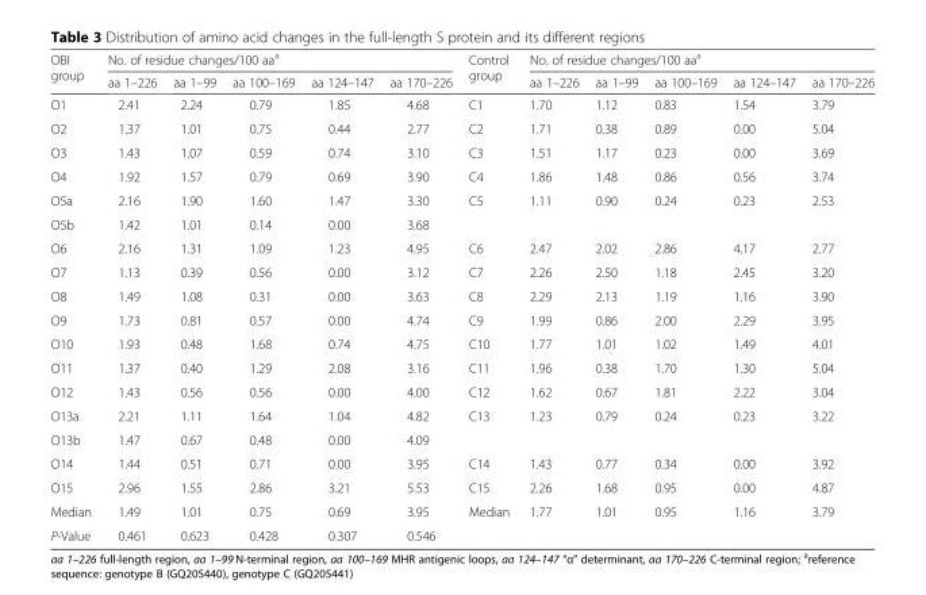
<table><thead><tr><td rowspan="2">OBI group</td><td colspan="5">No. of residue changes/100 aa<sup>a</sup></td><td rowspan="2">Control group</td><td colspan="5">No. of residue changes/100 aa<sup>a</sup></td></tr><tr><td>aa 1–226</td><td>aa 1–99</td><td>aa 100–169</td><td>aa 124–147</td><td>aa 170–226</td><td>aa 1–226</td><td>aa 1–99</td><td>aa 100–169</td><td>aa 124–147</td><td>aa 170–226</td></tr></thead><tbody><tr><td>O1</td><td>2.41</td><td>2.24</td><td>0.79</td><td>1.85</td><td>4.68</td><td>C1</td><td>1.70</td><td>1.12</td><td>0.83</td><td>1.54</td><td>3.79</td></tr><tr><td>O2</td><td>1.37</td><td>1.01</td><td>0.75</td><td>0.44</td><td>2.77</td><td>C2</td><td>1.71</td><td>0.38</td><td>0.89</td><td>0.00</td><td>5.04</td></tr><tr><td>O3</td><td>1.43</td><td>1.07</td><td>0.59</td><td>0.74</td><td>3.10</td><td>C3</td><td>1.51</td><td>1.17</td><td>0.23</td><td>0.00</td><td>3.69</td></tr><tr><td>O4</td><td>1.92</td><td>1.57</td><td>0.79</td><td>0.69</td><td>3.90</td><td>C4</td><td>1.86</td><td>1.48</td><td>0.86</td><td>0.56</td><td>3.74</td></tr><tr><td>O5a</td><td>2.16</td><td>1.90</td><td>1.60</td><td>1.47</td><td>3.30</td><td>C5</td><td>1.11</td><td>0.90</td><td>0.24</td><td>0.23</td><td>2.53</td></tr><tr><td>O5b</td><td>1.42</td><td>1.01</td><td>0.14</td><td>0.00</td><td>3.68</td><td></td><td></td><td></td><td></td><td></td><td></td></tr><tr><td>O6</td><td>2.16</td><td>1.31</td><td>1.09</td><td>1.23</td><td>4.95</td><td>C6</td><td>2.47</td><td>2.02</td><td>2.86</td><td>4.17</td><td>2.77</td></tr><tr><td>O7</td><td>1.13</td><td>0.39</td><td>0.56</td><td>0.00</td><td>3.12</td><td>C7</td><td>2.26</td><td>2.50</td><td>1.18</td><td>2.45</td><td>3.20</td></tr><tr><td>O8</td><td>1.49</td><td>1.08</td><td>0.31</td><td>0.00</td><td>3.63</td><td>C8</td><td>2.29</td><td>2.13</td><td>1.19</td><td>1.16</td><td>3.90</td></tr><tr><td>O9</td><td>1.73</td><td>0.81</td><td>0.57</td><td>0.00</td><td>4.74</td><td>C9</td><td>1.99</td><td>0.86</td><td>2.00</td><td>2.29</td><td>3.95</td></tr><tr><td>O10</td><td>1.93</td><td>0.48</td><td>1.68</td><td>0.74</td><td>4.75</td><td>C10</td><td>1.77</td><td>1.01</td><td>1.02</td><td>1.49</td><td>4.01</td></tr><tr><td>O11</td><td>1.37</td><td>0.40</td><td>1.29</td><td>2.08</td><td>3.16</td><td>C11</td><td>1.96</td><td>0.38</td><td>1.70</td><td>1.30</td><td>5.04</td></tr><tr><td>O12</td><td>1.43</td><td>0.56</td><td>0.56</td><td>0.00</td><td>4.00</td><td>C12</td><td>1.62</td><td>0.67</td><td>1.81</td><td>2.22</td><td>3.04</td></tr><tr><td>O13a</td><td>2.21</td><td>1.11</td><td>1.64</td><td>1.04</td><td>4.82</td><td>C13</td><td>1.23</td><td>0.79</td><td>0.24</td><td>0.23</td><td>3.22</td></tr><tr><td>O13b</td><td>1.47</td><td>0.67</td><td>0.48</td><td>0.00</td><td>4.09</td><td></td><td></td><td></td><td></td><td></td><td></td></tr><tr><td>O14</td><td>1.44</td><td>0.51</td><td>0.71</td><td>0.00</td><td>3.95</td><td>C14</td><td>1.43</td><td>0.77</td><td>0.34</td><td>0.00</td><td>3.92</td></tr><tr><td>O15</td><td>2.96</td><td>1.55</td><td>2.86</td><td>3.21</td><td>5.53</td><td>C15</td><td>2.26</td><td>1.68</td><td>0.95</td><td>0.00</td><td>4.87</td></tr><tr><td>Median</td><td>1.49</td><td>1.01</td><td>0.75</td><td>0.69</td><td>3.95</td><td>Median</td><td>1.77</td><td>1.01</td><td>0.95</td><td>1.16</td><td>3.79</td></tr><tr><td>P-Value</td><td>0.461</td><td>0.623</td><td>0.428</td><td>0.307</td><td>0.546</td><td></td><td></td><td></td><td></td><td></td><td></td></tr></tbody></table>